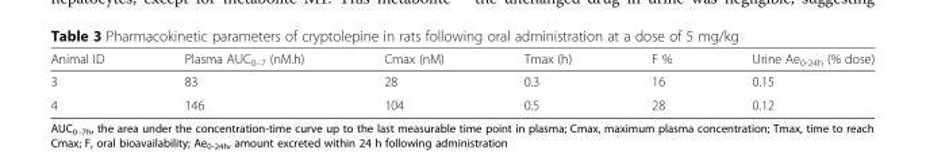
<table><thead><tr><td>Animal ID</td><td>Plasma AUC<sub>0–7</sub> (nM.h)</td><td>Cmax (nM)</td><td>Tmax (h)</td><td>F %</td><td>Urine Ae<sub>0-24h</sub> (% dose)</td></tr></thead><tbody><tr><td>3</td><td>83</td><td>28</td><td>0.3</td><td>16</td><td>0.15</td></tr><tr><td>4</td><td>146</td><td>104</td><td>0.5</td><td>28</td><td>0.12</td></tr></tbody></table>